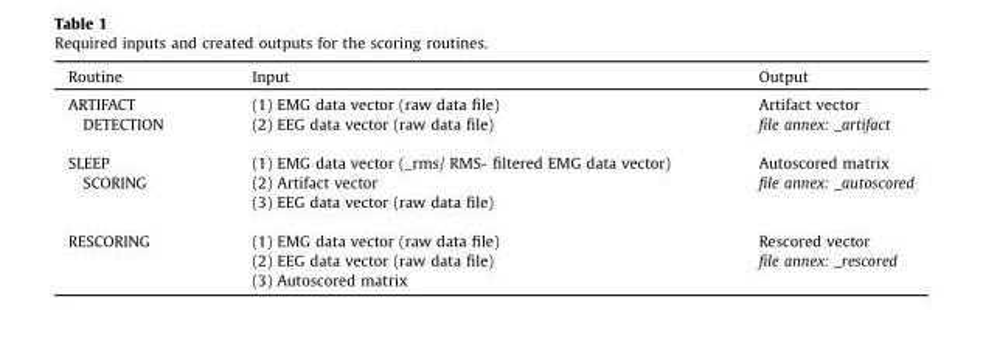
<table><thead><tr><td>Routine</td><td>Input</td><td>Output</td></tr></thead><tbody><tr><td>ARTIFACT DETECTION</td><td>(1) EMG data vector (raw data file) (2) EEG data vector (raw data file)</td><td>Artifact vector file annex: _artifact</td></tr><tr><td>SLEEP SCORING</td><td>(1) EMG data vector (_rms/ RMS- filtered EMG data vector) (2) Artifact vector (3) EEG data vector (raw data file)</td><td>Autoscored matrix file annex: _autoscored</td></tr><tr><td>RESCORING</td><td>(1) EMG data vector (raw data file) (2) EEG data vector (raw data file) (3) Autoscored matrix</td><td>Rescored vector file annex: _rescored</td></tr></tbody></table>